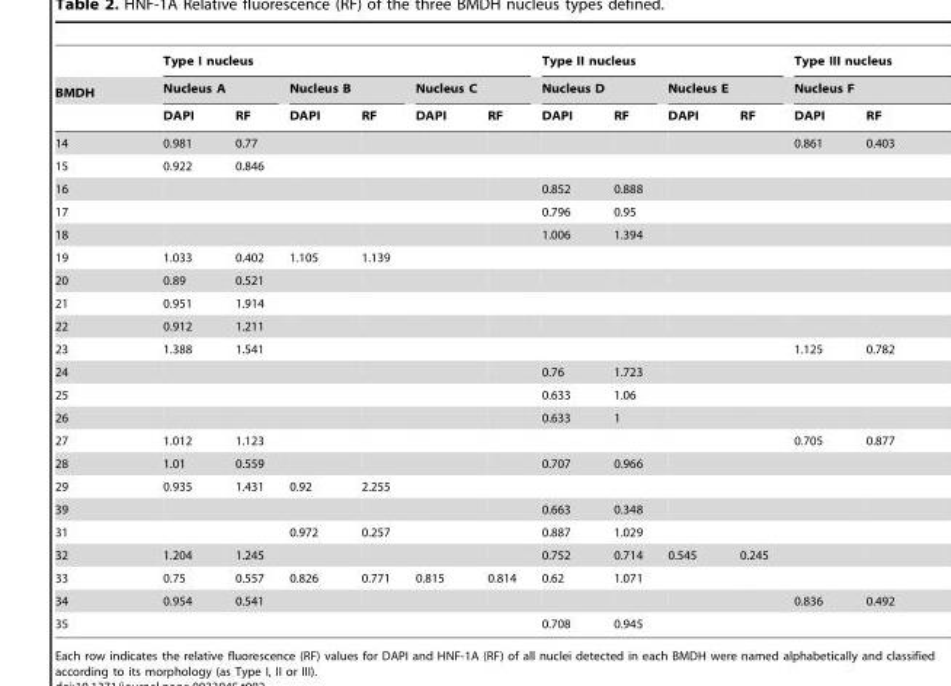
<table><thead><tr><td rowspan="3">BMDH</td><td colspan="6">Type I nucleus</td><td colspan="4">Type II nucleus</td><td rowspan="2" colspan="2">Type III nucleus Nucleus F</td></tr><tr><td colspan="2">Nucleus A</td><td colspan="2">Nucleus B</td><td colspan="2">Nucleus C</td><td colspan="2">Nucleus D</td><td colspan="2">Nucleus E</td></tr><tr><td>DAPI</td><td>RF</td><td>DAPI</td><td>RF</td><td>DAPI</td><td>RF</td><td>DAPI</td><td>RF</td><td>DAPI</td><td>RF</td><td>DAPI</td><td>RF</td></tr></thead><tbody><tr><td>14</td><td>0.981</td><td>0.77</td><td></td><td></td><td></td><td></td><td></td><td></td><td></td><td></td><td>0.861</td><td>0.403</td></tr><tr><td>15</td><td>0.922</td><td>0.846</td><td></td><td></td><td></td><td></td><td></td><td></td><td></td><td></td><td></td><td></td></tr><tr><td>16</td><td></td><td></td><td></td><td></td><td></td><td></td><td>0.852</td><td>0.888</td><td></td><td></td><td></td><td></td></tr><tr><td>17</td><td></td><td></td><td></td><td></td><td></td><td></td><td>0.796</td><td>0.95</td><td></td><td></td><td></td><td></td></tr><tr><td>18</td><td></td><td></td><td></td><td></td><td></td><td></td><td>1.006</td><td>1.394</td><td></td><td></td><td></td><td></td></tr><tr><td>19</td><td>1.033</td><td>0.402</td><td>1.105</td><td>1.139</td><td></td><td></td><td></td><td></td><td></td><td></td><td></td><td></td></tr><tr><td>20</td><td>0.89</td><td>0.521</td><td></td><td></td><td></td><td></td><td></td><td></td><td></td><td></td><td></td><td></td></tr><tr><td>21</td><td>0.951</td><td>1.914</td><td></td><td></td><td></td><td></td><td></td><td></td><td></td><td></td><td></td><td></td></tr><tr><td>22</td><td>0.912</td><td>1.211</td><td></td><td></td><td></td><td></td><td></td><td></td><td></td><td></td><td></td><td></td></tr><tr><td>23</td><td>1.388</td><td>1.541</td><td></td><td></td><td></td><td></td><td></td><td></td><td></td><td></td><td>1.125</td><td>0.782</td></tr><tr><td>24</td><td></td><td></td><td></td><td></td><td></td><td></td><td>0.76</td><td>1.723</td><td></td><td></td><td></td><td></td></tr><tr><td>25</td><td></td><td></td><td></td><td></td><td></td><td></td><td>0.633</td><td>1.06</td><td></td><td></td><td></td><td></td></tr><tr><td>26</td><td></td><td></td><td></td><td></td><td></td><td></td><td>0.633</td><td>1</td><td></td><td></td><td></td><td></td></tr><tr><td>27</td><td>1.012</td><td>1.123</td><td></td><td></td><td></td><td></td><td></td><td></td><td></td><td></td><td>0.705</td><td>0.877</td></tr><tr><td>28</td><td>1.01</td><td>0.559</td><td></td><td></td><td></td><td></td><td>0.707</td><td>0.966</td><td></td><td></td><td></td><td></td></tr><tr><td>29</td><td>0.935</td><td>1.431</td><td>0.92</td><td>2.255</td><td></td><td></td><td></td><td></td><td></td><td></td><td></td><td></td></tr><tr><td>39</td><td></td><td></td><td></td><td></td><td></td><td></td><td>0.663</td><td>0.348</td><td></td><td></td><td></td><td></td></tr><tr><td>31</td><td></td><td></td><td>0.972</td><td>0.257</td><td></td><td></td><td>0.887</td><td>1.029</td><td></td><td></td><td></td><td></td></tr><tr><td>32</td><td>1.204</td><td>1.245</td><td></td><td></td><td></td><td></td><td>0.752</td><td>0.714</td><td>0.545</td><td>0.245</td><td></td><td></td></tr><tr><td>33</td><td>0.75</td><td>0.557</td><td>0.826</td><td>0.771</td><td>0.815</td><td>0.814</td><td>0.62</td><td>1.071</td><td></td><td></td><td></td><td></td></tr><tr><td>34</td><td>0.954</td><td>0.541</td><td></td><td></td><td></td><td></td><td></td><td></td><td></td><td></td><td>0.836</td><td>0.492</td></tr><tr><td>35</td><td></td><td></td><td></td><td></td><td></td><td></td><td>0.708</td><td>0.945</td><td></td><td></td><td></td><td></td></tr></tbody></table>